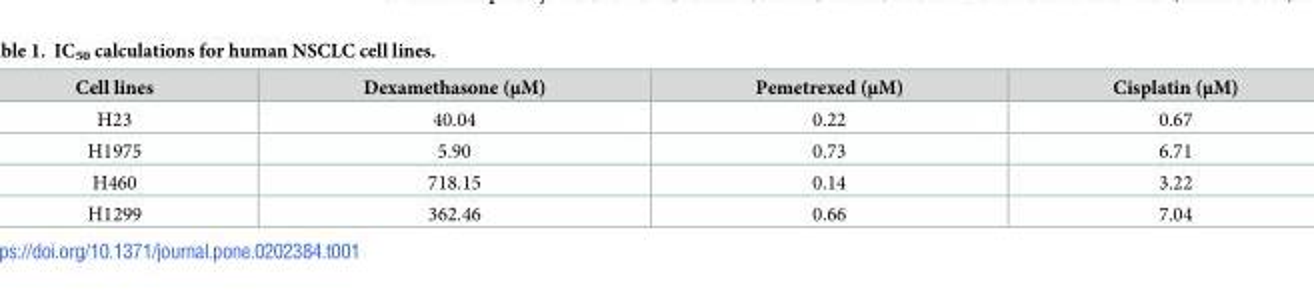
<table><thead><tr><td>Cell lines</td><td>Dexamethasone (μM)</td><td>Pemetrexed (μM)</td><td>Cisplatin (μM)</td></tr></thead><tbody><tr><td>H23</td><td>40.04</td><td>0.22</td><td>0.67</td></tr><tr><td>H1975</td><td>5.90</td><td>0.73</td><td>6.71</td></tr><tr><td>H460</td><td>718.15</td><td>0.14</td><td>3.22</td></tr><tr><td>H1299</td><td>362.46</td><td>0.66</td><td>7.04</td></tr></tbody></table>